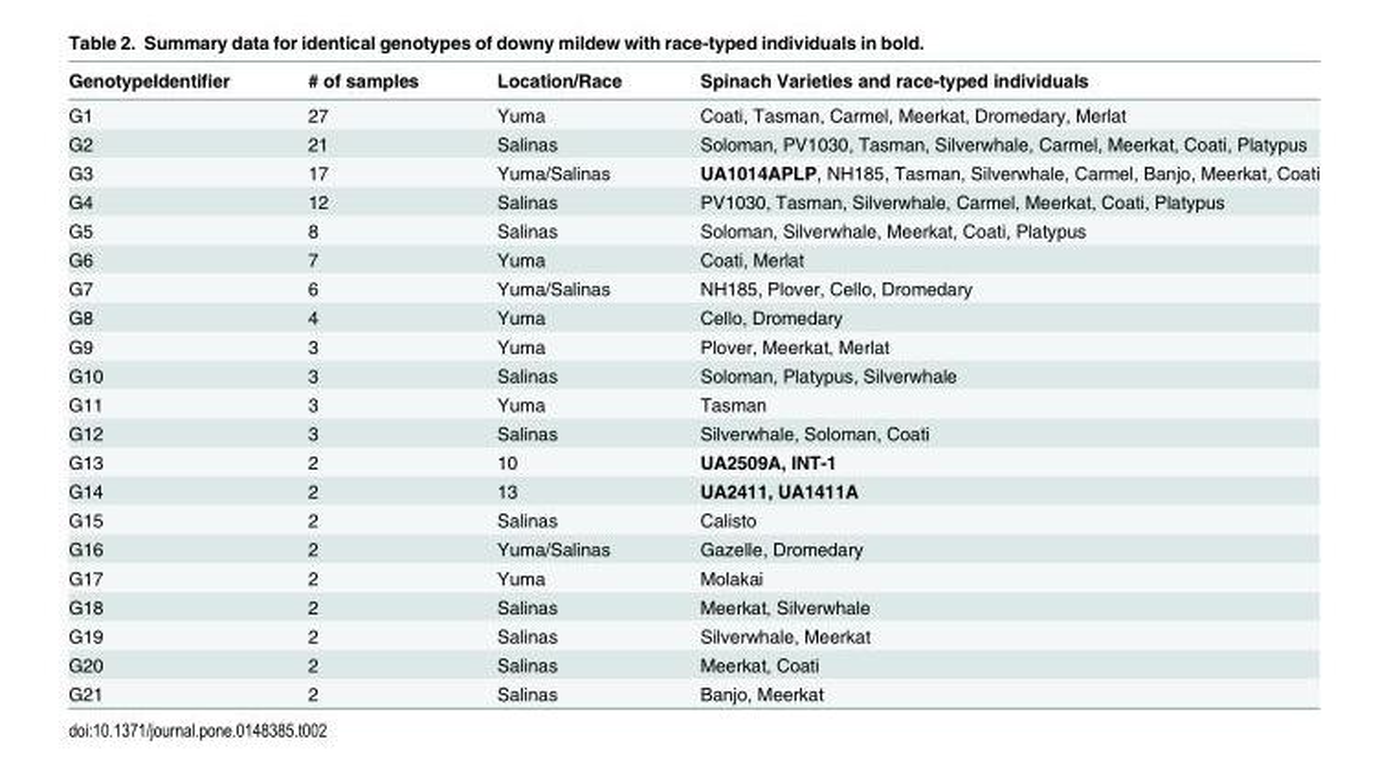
<table><thead><tr><td>GenotypeIdentifier</td><td># of samples</td><td>Location/Race</td><td>Spinach Varieties and race-typed individuals</td></tr></thead><tbody><tr><td>G1</td><td>27</td><td>Yuma</td><td>Coati, Tasman, Carmel, Meerkat, Dromedary, Merlat</td></tr><tr><td>G2</td><td>21</td><td>Salinas</td><td>Soloman, PV1030, Tasman, Silverwhale, Carmel, Meerkat, Coati, Platypus</td></tr><tr><td>G3</td><td>17</td><td>Yuma/Salinas</td><td>UA1014APLP, NH185, Tasman, Silverwhale, Carmel, Banjo, Meerkat, Coati</td></tr><tr><td>G4</td><td>12</td><td>Salinas</td><td>PV1030, Tasman, Silverwhale, Carmel, Meerkat, Coati, Platypus</td></tr><tr><td>G5</td><td>8</td><td>Salinas</td><td>Soloman, Silverwhale, Meerkat, Coati, Platypus</td></tr><tr><td>G6</td><td>7</td><td>Yuma</td><td>Coati, Merlat</td></tr><tr><td>G7</td><td>6</td><td>Yuma/Salinas</td><td>NH185, Plover, Cello, Dromedary</td></tr><tr><td>G8</td><td>4</td><td>Yuma</td><td>Cello, Dromedary</td></tr><tr><td>G9</td><td>3</td><td>Yuma</td><td>Plover, Meerkat, Merlat</td></tr><tr><td>G10</td><td>3</td><td>Salinas</td><td>Soloman, Platypus, Silverwhale</td></tr><tr><td>G11</td><td>3</td><td>Yuma</td><td>Tasman</td></tr><tr><td>G12</td><td>3</td><td>Salinas</td><td>Silverwhale, Soloman, Coati</td></tr><tr><td>G13</td><td>2</td><td>10</td><td>UA2509A, INT-1</td></tr><tr><td>G14</td><td>2</td><td>13</td><td>UA2411, UA1411A</td></tr><tr><td>G15</td><td>2</td><td>Salinas</td><td>Calisto</td></tr><tr><td>G16</td><td>2</td><td>Yuma/Salinas</td><td>Gazelle, Dromedary</td></tr><tr><td>G17</td><td>2</td><td>Yuma</td><td>Molakai</td></tr><tr><td>G18</td><td>2</td><td>Salinas</td><td>Meerkat, Silverwhale</td></tr><tr><td>G19</td><td>2</td><td>Salinas</td><td>Silverwhale, Meerkat</td></tr><tr><td>G20</td><td>2</td><td>Salinas</td><td>Meerkat, Coati</td></tr><tr><td>G21</td><td>2</td><td>Salinas</td><td>Banjo, Meerkat</td></tr></tbody></table>